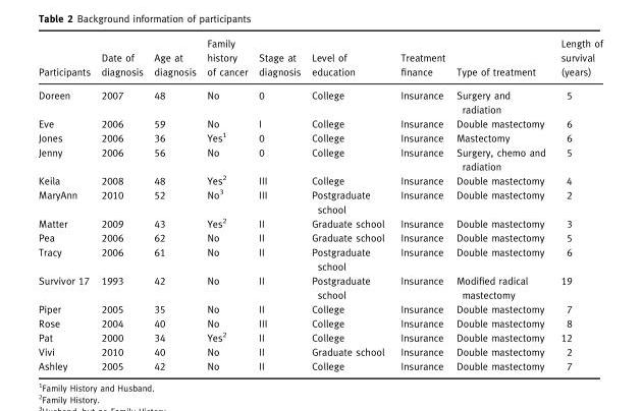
<table><thead><tr><td>Participants</td><td>Date of diagnosis</td><td>Age at diagnosis</td><td>Family history of cancer</td><td>Stage at diagnosis</td><td>Level of education</td><td>Treatment finance</td><td>Type of treatment</td><td>Length of survival (years)</td></tr></thead><tbody><tr><td>Doreen</td><td>2007</td><td>48</td><td>No</td><td>0</td><td>College</td><td>Insurance</td><td>Surgery and radiation</td><td>5</td></tr><tr><td>Eve</td><td>2006</td><td>59</td><td>No</td><td>I</td><td>College</td><td>Insurance</td><td>Double mastectomy</td><td>6</td></tr><tr><td>Jones</td><td>2006</td><td>36</td><td>Yes1</td><td>0</td><td>College</td><td>Insurance</td><td>Mastectomy</td><td>6</td></tr><tr><td>Jenny</td><td>2006</td><td>56</td><td>No</td><td>0</td><td>College</td><td>Insurance</td><td>Surgery, chemo and radiation</td><td>5</td></tr><tr><td>Keila</td><td>2008</td><td>48</td><td>Yes2</td><td>III</td><td>College</td><td>Insurance</td><td>Double mastectomy</td><td>4</td></tr><tr><td>MaryAnn</td><td>2010</td><td>52</td><td>No3</td><td>III</td><td>Postgraduate school</td><td>Insurance</td><td>Double mastectomy</td><td>2</td></tr><tr><td>Matter</td><td>2009</td><td>43</td><td>Yes2</td><td>II</td><td>Graduate school</td><td>Insurance</td><td>Double mastectomy</td><td>3</td></tr><tr><td>Pea</td><td>2006</td><td>62</td><td>No</td><td>II</td><td>Graduate school</td><td>Insurance</td><td>Double mastectomy</td><td>5</td></tr><tr><td>Tracy</td><td>2006</td><td>61</td><td>No</td><td>II</td><td>Postgraduate school</td><td>Insurance</td><td>Double mastectomy</td><td>6</td></tr><tr><td>Survivor 17</td><td>1993</td><td>42</td><td>No</td><td>II</td><td>Postgraduate school</td><td>Insurance</td><td>Modified radical mastectomy</td><td>19</td></tr><tr><td>Piper</td><td>2005</td><td>35</td><td>No</td><td>II</td><td>College</td><td>Insurance</td><td>Double mastectomy</td><td>7</td></tr><tr><td>Rose</td><td>2004</td><td>40</td><td>No</td><td>III</td><td>College</td><td>Insurance</td><td>Double mastectomy</td><td>8</td></tr><tr><td>Pat</td><td>2000</td><td>34</td><td>Yes2</td><td>II</td><td>College</td><td>Insurance</td><td>Double mastectomy</td><td>12</td></tr><tr><td>Vivi</td><td>2010</td><td>40</td><td>No</td><td>II</td><td>Graduate school</td><td>Insurance</td><td>Double mastectomy</td><td>2</td></tr><tr><td>Ashley</td><td>2005</td><td>42</td><td>No</td><td>II</td><td>College</td><td>Insurance</td><td>Double mastectomy</td><td>7</td></tr></tbody></table>